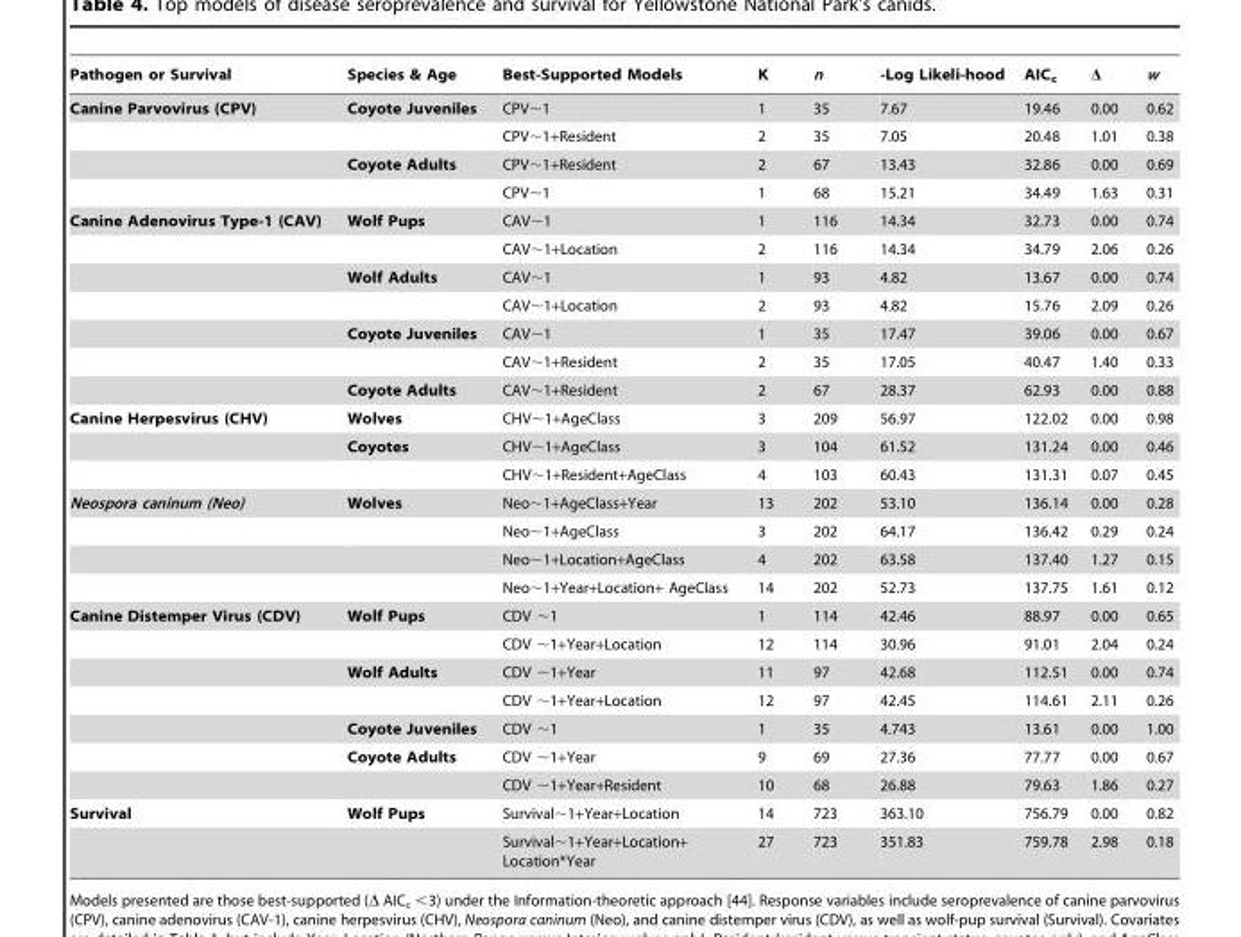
<table><thead><tr><td>Pathogen or Survival</td><td>Species &amp; Age</td><td>Best-Supported Models</td><td>K</td><td>n</td><td>-Log Likeli-hood</td><td>AIC<sub>c</sub></td><td>Δ</td><td>w</td></tr></thead><tbody><tr><td rowspan="4">Canine Parvovirus (CPV)</td><td>Coyote Juveniles</td><td>CPV∼1</td><td>1</td><td>35</td><td>7.67</td><td>19.46</td><td>0.00</td><td>0.62</td></tr><tr><td></td><td>CPV∼1+Resident</td><td>2</td><td>35</td><td>7.05</td><td>20.48</td><td>1.01</td><td>0.38</td></tr><tr><td>Coyote Adults</td><td>CPV∼1+Resident</td><td>2</td><td>67</td><td>13.43</td><td>32.86</td><td>0.00</td><td>0.69</td></tr><tr><td></td><td>CPV∼1</td><td>1</td><td>68</td><td>15.21</td><td>34.49</td><td>1.63</td><td>0.31</td></tr><tr><td rowspan="7">Canine Adenovirus Type-1 (CAV)</td><td>Wolf Pups</td><td>CAV∼1</td><td>1</td><td>116</td><td>14.34</td><td>32.73</td><td>0.00</td><td>0.74</td></tr><tr><td></td><td>CAV∼1+Location</td><td>2</td><td>116</td><td>14.34</td><td>34.79</td><td>2.06</td><td>0.26</td></tr><tr><td>Wolf Adults</td><td>CAV∼1</td><td>1</td><td>93</td><td>4.82</td><td>13.67</td><td>0.00</td><td>0.74</td></tr><tr><td></td><td>CAV∼1+Location</td><td>2</td><td>93</td><td>4.82</td><td>15.76</td><td>2.09</td><td>0.26</td></tr><tr><td>Coyote Juveniles</td><td>CAV∼1</td><td>1</td><td>35</td><td>17.47</td><td>39.06</td><td>0.00</td><td>0.67</td></tr><tr><td></td><td>CAV∼1+Resident</td><td>2</td><td>35</td><td>17.05</td><td>40.47</td><td>1.40</td><td>0.33</td></tr><tr><td>Coyote Adults</td><td>CAV∼1+Resident</td><td>2</td><td>67</td><td>28.37</td><td>62.93</td><td>0.00</td><td>0.88</td></tr><tr><td rowspan="3">Canine Herpesvirus (CHV)</td><td>Wolves</td><td>CHV∼1+AgeClass</td><td>3</td><td>209</td><td>56.97</td><td>122.02</td><td>0.00</td><td>0.98</td></tr><tr><td>Coyotes</td><td>CHV∼1+AgeClass</td><td>3</td><td>104</td><td>61.52</td><td>131.24</td><td>0.00</td><td>0.46</td></tr><tr><td></td><td>CHV∼1+Resident+AgeClass</td><td>4</td><td>103</td><td>60.43</td><td>131.31</td><td>0.07</td><td>0.45</td></tr><tr><td rowspan="4">Neospora caninum (Neo)</td><td>Wolves</td><td>Neo∼1+AgeClass+Year</td><td>13</td><td>202</td><td>53.10</td><td>136.14</td><td>0.00</td><td>0.28</td></tr><tr><td></td><td>Neo∼1+AgeClass</td><td>3</td><td>202</td><td>64.17</td><td>136.42</td><td>0.29</td><td>0.24</td></tr><tr><td></td><td>Neo∼1+Location+AgeClass</td><td>4</td><td>202</td><td>63.58</td><td>137.40</td><td>1.27</td><td>0.15</td></tr><tr><td></td><td>Neo∼1+Year+Location+ AgeClass</td><td>14</td><td>202</td><td>52.73</td><td>137.75</td><td>1.61</td><td>0.12</td></tr><tr><td rowspan="7">Canine Distemper Virus (CDV)</td><td>Wolf Pups</td><td>CDV ∼1</td><td>1</td><td>114</td><td>42.46</td><td>88.97</td><td>0.00</td><td>0.65</td></tr><tr><td></td><td>CDV ∼1+Year+Location</td><td>12</td><td>114</td><td>30.96</td><td>91.01</td><td>2.04</td><td>0.24</td></tr><tr><td>Wolf Adults</td><td>CDV ∼1+Year</td><td>11</td><td>97</td><td>42.68</td><td>112.51</td><td>0.00</td><td>0.74</td></tr><tr><td></td><td>CDV ∼1+Year+Location</td><td>12</td><td>97</td><td>42.45</td><td>114.61</td><td>2.11</td><td>0.26</td></tr><tr><td>Coyote Juveniles</td><td>CDV ∼1</td><td>1</td><td>35</td><td>4.743</td><td>13.61</td><td>0.00</td><td>1.00</td></tr><tr><td>Coyote Adults</td><td>CDV ∼1+Year</td><td>9</td><td>69</td><td>27.36</td><td>77.77</td><td>0.00</td><td>0.67</td></tr><tr><td></td><td>CDV ∼1+Year+Resident</td><td>10</td><td>68</td><td>26.88</td><td>79.63</td><td>1.86</td><td>0.27</td></tr><tr><td rowspan="2">Survival</td><td>Wolf Pups</td><td>Survival∼1+Year+Location</td><td>14</td><td>723</td><td>363.10</td><td>756.79</td><td>0.00</td><td>0.82</td></tr><tr><td></td><td>Survival∼1+Year+Location+ Location*Year</td><td>27</td><td>723</td><td>351.83</td><td>759.78</td><td>2.98</td><td>0.18</td></tr></tbody></table>